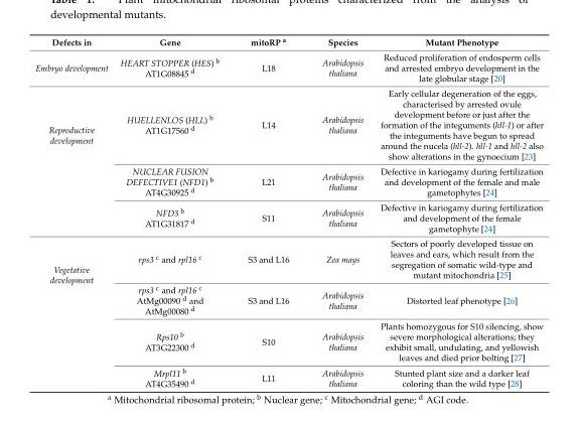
<table><thead><tr><td>Defects in</td><td>Gene</td><td>mitoRP <sup>a</sup></td><td>Species</td><td>Mutant Phenotype</td></tr></thead><tbody><tr><td>Embryo development</td><td>HEART STOPPER (HES) <sup>b</sup> AT1G08845 <sup>d</sup></td><td>L18</td><td>Arabidopsis thaliana</td><td>Reduced proliferation of endosperm cells and arrested embryo development in the late globular stage [20]</td></tr><tr><td rowspan="3">Reproductive development</td><td>HUELLENLOS (HLL) <sup>b</sup> AT1G17560 <sup>d</sup></td><td>L14</td><td>Arabidopsis thaliana</td><td>Early cellular degeneration of the eggs, characterised by arrested ovule development before or just after the formation of the integuments (hll-1) or after the integuments have begun to spread around the nucela (hll-2). hll-1 and hll-2 also show alterations in the gynoecium [23]</td></tr><tr><td>NUCLEAR FUSION DEFECTIVE1 (NFD1) <sup>b</sup> AT4G30925 <sup>d</sup></td><td>L21</td><td>Arabidopsis thaliana</td><td>Defective in kariogamy during fertilization and development of the female and male gametophytes [24]</td></tr><tr><td>NFD3 <sup>b</sup> AT1G31817 <sup>d</sup></td><td>S11</td><td>Arabidopsis thaliana</td><td>Defective in kariogamy during fertilization and development of the female gametophyte [24]</td></tr><tr><td rowspan="4">Vegetative development</td><td>rps3 <sup>c</sup> and rpl16 <sup>c</sup></td><td>S3 and L16</td><td>Zea mays</td><td>Sectors of poorly developed tissue on leaves and ears, which result from the segregation of somatic wild-type and mutant mitochondria [25]</td></tr><tr><td>rps3 <sup>c</sup> and rpl16 <sup>c</sup> AtMg00090 <sup>d</sup> and AtMg00080 <sup>d</sup></td><td>S3 and L16</td><td>Arabidopsis thaliana</td><td>Distorted leaf phenotype [26]</td></tr><tr><td>Rps10 <sup>b</sup> AT3G22300 <sup>d</sup></td><td>S10</td><td>Arabidopsis thaliana</td><td>Plants homozygous for S10 silencing, show severe morphological alterations; they exhibit small, undulating, and yellowish leaves and died prior bolting [27]</td></tr><tr><td>Mrpl11 <sup>b</sup> AT4G35490 <sup>d</sup></td><td>L11</td><td>Arabidopsis thaliana</td><td>Stunted plant size and a darker leaf coloring than the wild type [28]</td></tr></tbody></table>